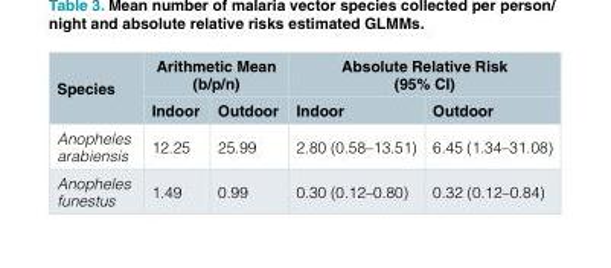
<table><thead><tr><td rowspan="2">Species</td><td colspan="2">Arithmetic Mean (b/p/n)</td><td colspan="2">Absolute Relative Risk (95% CI)</td></tr><tr><td>Indoor</td><td>Outdoor</td><td>Indoor</td><td>Outdoor</td></tr></thead><tbody><tr><td>Anopheles arabiensis</td><td>12.25</td><td>25.99</td><td>2.80 (0.58–13.51)</td><td>6.45 (1.34–31.08)</td></tr><tr><td>Anopheles funestus</td><td>1.49</td><td>0.99</td><td>0.30 (0.12–0.80)</td><td>0.32 (0.12–0.84)</td></tr></tbody></table>